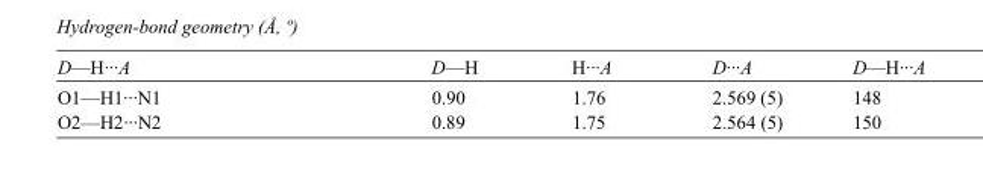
<table><tbody><tr><td>D—H···A</td><td>D—H</td><td>H···A</td><td>D···A</td><td>D—H···A</td></tr><tr><td>O1—H1···N1</td><td>0.90</td><td>1.76</td><td>2.569 (5)</td><td>148</td></tr><tr><td>O2—H2···N2</td><td>0.89</td><td>1.75</td><td>2.564 (5)</td><td>150</td></tr></tbody></table>